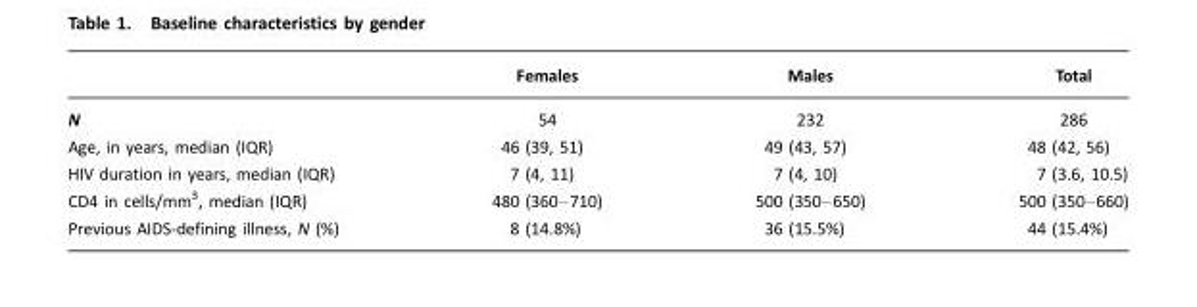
<table><thead><tr><td></td><td>Females</td><td>Males</td><td>Total</td></tr></thead><tbody><tr><td>N</td><td>54</td><td>232</td><td>286</td></tr><tr><td>Age, in years, median (IQR)</td><td>46 (39, 51)</td><td>49 (43, 57)</td><td>48 (42, 56)</td></tr><tr><td>HIV duration in years, median (IQR)</td><td>7 (4, 11)</td><td>7 (4, 10)</td><td>7 (3.6, 10.5)</td></tr><tr><td>CD4 in cells/mm<sup>3</sup>, median (IQR)</td><td>480 (360–710)</td><td>500 (350–650)</td><td>500 (350–660)</td></tr><tr><td>Previous AIDS-defining illness, N (%)</td><td>8 (14.8%)</td><td>36 (15.5%)</td><td>44 (15.4%)</td></tr></tbody></table>